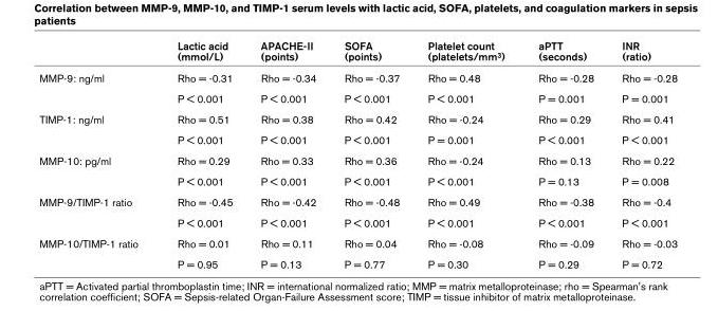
<table><thead><tr><td></td><td>Lactic acid (mmol/L)</td><td>APACHE-II (points)</td><td>SOFA (points)</td><td>Platelet count (platelets/mm<sup>3</sup>)</td><td>aPTT (seconds)</td><td>INR (ratio)</td></tr></thead><tbody><tr><td rowspan="2">MMP-9: ng/ml</td><td>Rho = -0.31</td><td>Rho = -0.34</td><td>Rho = -0.37</td><td>Rho = 0.48</td><td>Rho = -0.28</td><td>Rho = -0.28</td></tr><tr><td>P &lt; 0.001</td><td>P &lt; 0.001</td><td>P &lt; 0.001</td><td>P &lt; 0.001</td><td>P = 0.001</td><td>P = 0.001</td></tr><tr><td rowspan="2">TIMP-1: ng/ml</td><td>Rho = 0.51</td><td>Rho = 0.38</td><td>Rho = 0.42</td><td>Rho = -0.24</td><td>Rho = 0.29</td><td>Rho = 0.41</td></tr><tr><td>P &lt; 0.001</td><td>P &lt; 0.001</td><td>P &lt; 0.001</td><td>P = 0.001</td><td>P &lt; 0.001</td><td>P &lt; 0.001</td></tr><tr><td rowspan="2">MMP-10: pg/ml</td><td>Rho = 0.29</td><td>Rho = 0.33</td><td>Rho = 0.36</td><td>Rho = -0.24</td><td>Rho = 0.13</td><td>Rho = 0.22</td></tr><tr><td>P &lt; 0.001</td><td>P &lt; 0.001</td><td>P &lt; 0.001</td><td>P &lt; 0.001</td><td>P = 0.13</td><td>P = 0.008</td></tr><tr><td rowspan="2">MMP-9/TIMP-1 ratio</td><td>Rho = -0.45</td><td>Rho = -0.42</td><td>Rho = -0.48</td><td>Rho = 0.49</td><td>Rho = -0.38</td><td>Rho = -0.4</td></tr><tr><td>P &lt; 0.001</td><td>P &lt; 0.001</td><td>P &lt; 0.001</td><td>P &lt; 0.001</td><td>P &lt; 0.001</td><td>P &lt; 0.001</td></tr><tr><td rowspan="2">MMP-10/TIMP-1 ratio</td><td>Rho = 0.01</td><td>Rho = 0.11</td><td>Rho = 0.04</td><td>Rho = -0.08</td><td>Rho = -0.09</td><td>Rho = -0.03</td></tr><tr><td>P = 0.95</td><td>P = 0.13</td><td>P = 0.77</td><td>P = 0.30</td><td>P = 0.29</td><td>P = 0.72</td></tr></tbody></table>